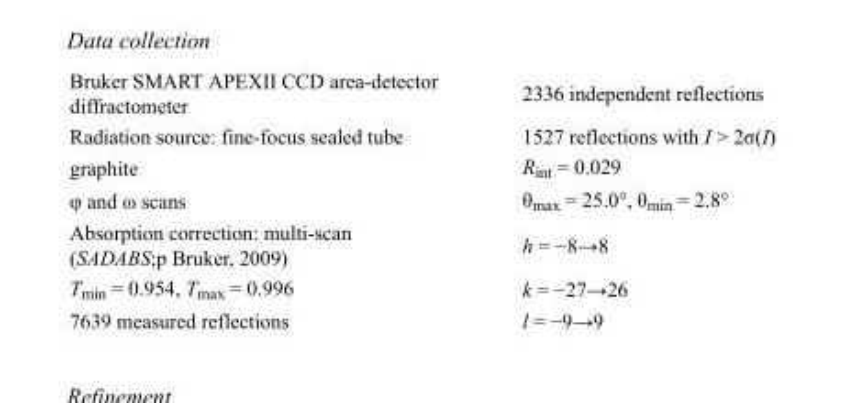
<table><tbody><tr><td>Bruker SMART APEXII CCD area-detector diffractometer</td><td>2336 independent reflections</td></tr><tr><td>Radiation source: fine-focus sealed tube</td><td>1527 reflections with I &gt; 2σ(I)</td></tr><tr><td>graphite</td><td>R<sub>int</sub> = 0.029</td></tr><tr><td>φ and ω scans</td><td>θ<sub>max</sub> = 25.0°, θ<sub>min</sub> = 2.8°</td></tr><tr><td>Absorption correction: multi-scan (SADABS;p Bruker, 2009)</td><td>h = −8→8</td></tr><tr><td>T<sub>min</sub> = 0.954, T<sub>max</sub> = 0.996</td><td>k = −27→26</td></tr><tr><td>7639 measured reflections</td><td>l = −9→9</td></tr></tbody></table>